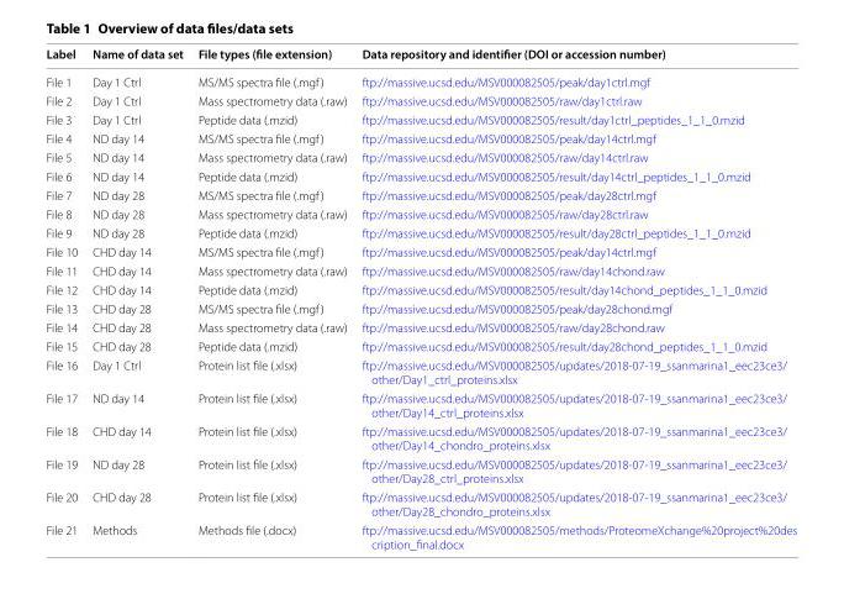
<table><thead><tr><td>Label</td><td>Name of data set</td><td>File types (file extension)</td><td>Data repository and identifier (DOI or accession number)</td></tr></thead><tbody><tr><td>File 1</td><td>Day 1 Ctrl</td><td>MS/MS spectra file (.mgf)</td><td>ftp://massi ve.ucsd.edu/MSV00 00825 05/peak/day1c trl.mgf</td></tr><tr><td>File 2</td><td>Day 1 Ctrl</td><td>Mass spectrometry data (.raw)</td><td>ftp://massi ve.ucsd.edu/MSV00 00825 05/raw/day1c trl.raw</td></tr><tr><td>File 3</td><td>Day 1 Ctrl</td><td>Peptide data (.mzid)</td><td>ftp://massi ve.ucsd.edu/MSV00 00825 05/resul t/day1c trl_pepti des_1_1_0.mzid</td></tr><tr><td>File 4</td><td>ND day 14</td><td>MS/MS spectra file (.mgf)</td><td>ftp://massi ve.ucsd.edu/MSV00 00825 05/peak/day14 ctrl.mgf</td></tr><tr><td>File 5</td><td>ND day 14</td><td>Mass spectrometry data (.raw)</td><td>ftp://massi ve.ucsd.edu/MSV00 00825 05/raw/day14 ctrl.raw</td></tr><tr><td>File 6</td><td>ND day 14</td><td>Peptide data (.mzid)</td><td>ftp://massi ve.ucsd.edu/MSV00 00825 05/resul t/day14 ctrl_pepti des_1_1_0.mzid</td></tr><tr><td>File 7</td><td>ND day 28</td><td>MS/MS spectra file (.mgf)</td><td>ftp://massi ve.ucsd.edu/MSV00 00825 05/peak/day28 ctrl.mgf</td></tr><tr><td>File 8</td><td>ND day 28</td><td>Mass spectrometry data (.raw)</td><td>ftp://massi ve.ucsd.edu/MSV00 00825 05/raw/day28 ctrl.raw</td></tr><tr><td>File 9</td><td>ND day 28</td><td>Peptide data (.mzid)</td><td>ftp://massi ve.ucsd.edu/MSV00 00825 05/resul t/day28 ctrl_pepti des_1_1_0.mzid</td></tr><tr><td>File 10</td><td>CHD day 14</td><td>MS/MS spectra file (.mgf)</td><td>ftp://massi ve.ucsd.edu/MSV00 00825 05/peak/day14 ctrl.mgf</td></tr><tr><td>File 11</td><td>CHD day 14</td><td>Mass spectrometry data (.raw)</td><td>ftp://massi ve.ucsd.edu/MSV00 00825 05/raw/day14 chond .raw</td></tr><tr><td>File 12</td><td>CHD day 14</td><td>Peptide data (.mzid)</td><td>ftp://massi ve.ucsd.edu/MSV00 00825 05/resul t/day14 chond _pepti des_1_1_0.mzid</td></tr><tr><td>File 13</td><td>CHD day 28</td><td>MS/MS spectra file (.mgf)</td><td>ftp://massi ve.ucsd.edu/MSV00 00825 05/peak/day28 chond .mgf</td></tr><tr><td>File 14</td><td>CHD day 28</td><td>Mass spectrometry data (.raw)</td><td>ftp://massi ve.ucsd.edu/MSV00 00825 05/raw/day28 chond .raw</td></tr><tr><td>File 15</td><td>CHD day 28</td><td>Peptide data (.mzid)</td><td>ftp://massi ve.ucsd.edu/MSV00 00825 05/resul t/day28 chond _pepti des_1_1_0.mzid</td></tr><tr><td>File 16</td><td>Day 1 Ctrl</td><td>Protein list file (.xlsx)</td><td>ftp://massi ve.ucsd.edu/MSV00 00825 05/updat es/2018‑07‑19_ssanm arina 1_eec23 ce3/ other /Day1_ctrl_prote ins.xlsx</td></tr><tr><td>File 17</td><td>ND day 14</td><td>Protein list file (.xlsx)</td><td>ftp://massi ve.ucsd.edu/MSV00 00825 05/updat es/2018‑07‑19_ssanm arina 1_eec23 ce3/ other /Day14 _ctrl_prote ins.xlsx</td></tr><tr><td>File 18</td><td>CHD day 14</td><td>Protein list file (.xlsx)</td><td>ftp://massi ve.ucsd.edu/MSV00 00825 05/updat es/2018‑07‑19_ssanm arina 1_eec23 ce3/ other /Day14 _chond ro_prote ins.xlsx</td></tr><tr><td>File 19</td><td>ND day 28</td><td>Protein list file (.xlsx)</td><td>ftp://massi ve.ucsd.edu/MSV00 00825 05/updat es/2018‑07‑19_ssanm arina 1_eec23 ce3/ other /Day28 _ctrl_prote ins.xlsx</td></tr><tr><td>File 20</td><td>CHD day 28</td><td>Protein list file (.xlsx)</td><td>ftp://massi ve.ucsd.edu/MSV00 00825 05/updat es/2018‑07‑19_ssanm arina 1_eec23 ce3/ other /Day28 _chond ro_prote ins.xlsx</td></tr><tr><td>File 21</td><td>Methods</td><td>Methods file (.docx)</td><td>ftp://massi ve.ucsd.edu/MSV00 00825 05/metho ds/Prote omeXc hange %20pro ject%20des cript ion_final .docx</td></tr></tbody></table>